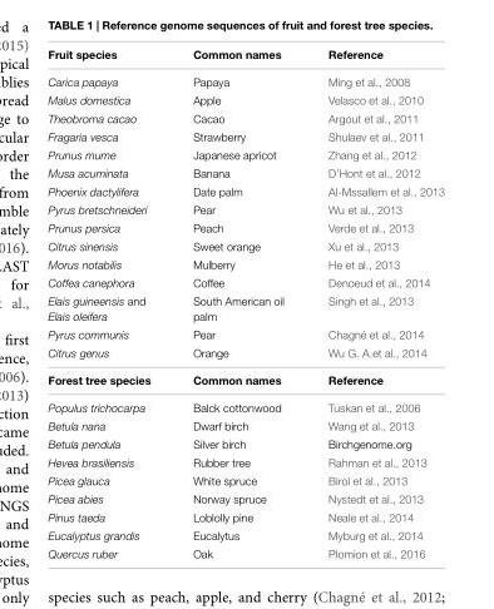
<table><thead><tr><td>Fruit species</td><td>Common names</td><td>Reference</td></tr></thead><tbody><tr><td>Carica papaya</td><td>Papaya</td><td>Ming et al., 2008</td></tr><tr><td>Malus domestica</td><td>Apple</td><td>Velasco et al., 2010</td></tr><tr><td>Theobroma cacao</td><td>Cacao</td><td>Argout et al., 2011</td></tr><tr><td>Fragaria vesca</td><td>Strawberry</td><td>Shulaev et al., 2011</td></tr><tr><td>Prunus mume</td><td>Japanese apricot</td><td>Zhang et al., 2012</td></tr><tr><td>Musa acuminata</td><td>Banana</td><td>D’Hont et al., 2012</td></tr><tr><td>Phoenix dactylifera</td><td>Date palm</td><td>Al-Mssallem et al., 2013</td></tr><tr><td>Pyrus bretschneideri</td><td>Pear</td><td>Wu et al., 2013</td></tr><tr><td>Prunus persica</td><td>Peach</td><td>Verde et al., 2013</td></tr><tr><td>Citrus sinensis</td><td>Sweet orange</td><td>Xu et al., 2013</td></tr><tr><td>Morus notabilis</td><td>Mulberry</td><td>He et al., 2013</td></tr><tr><td>Coffea canephora</td><td>Coffee</td><td>Denoeud et al., 2014</td></tr><tr><td>Elais guineensis and Elais oleifera</td><td>South American oil palm</td><td>Singh et al., 2013</td></tr><tr><td>Pyrus communis</td><td>Pear</td><td>Chagné et al., 2014</td></tr><tr><td>Citrus genus</td><td>Orange</td><td>Wu G. A.et al., 2014</td></tr><tr><td>Forest tree species</td><td>Common names</td><td>Reference</td></tr><tr><td>Populus trichocarpa</td><td>Balck cottonwood</td><td>Tuskan et al., 2006</td></tr><tr><td>Betula nana</td><td>Dwarf birch</td><td>Wang et al., 2013</td></tr><tr><td>Betula pendula</td><td>Silver birch</td><td>Birchgenome.org</td></tr><tr><td>Hevea brasiliensis</td><td>Rubber tree</td><td>Rahman et al., 2013</td></tr><tr><td>Picea glauca</td><td>White spruce</td><td>Birol et al., 2013</td></tr><tr><td>Picea abies</td><td>Norway spruce</td><td>Nystedt et al., 2013</td></tr><tr><td>Pinus taeda</td><td>Loblolly pine</td><td>Neale et al., 2014</td></tr><tr><td>Eucalyptus grandis</td><td>Eucalytus</td><td>Myburg et al., 2014</td></tr><tr><td>Quercus ruber</td><td>Oak</td><td>Plomion et al., 2016</td></tr></tbody></table>